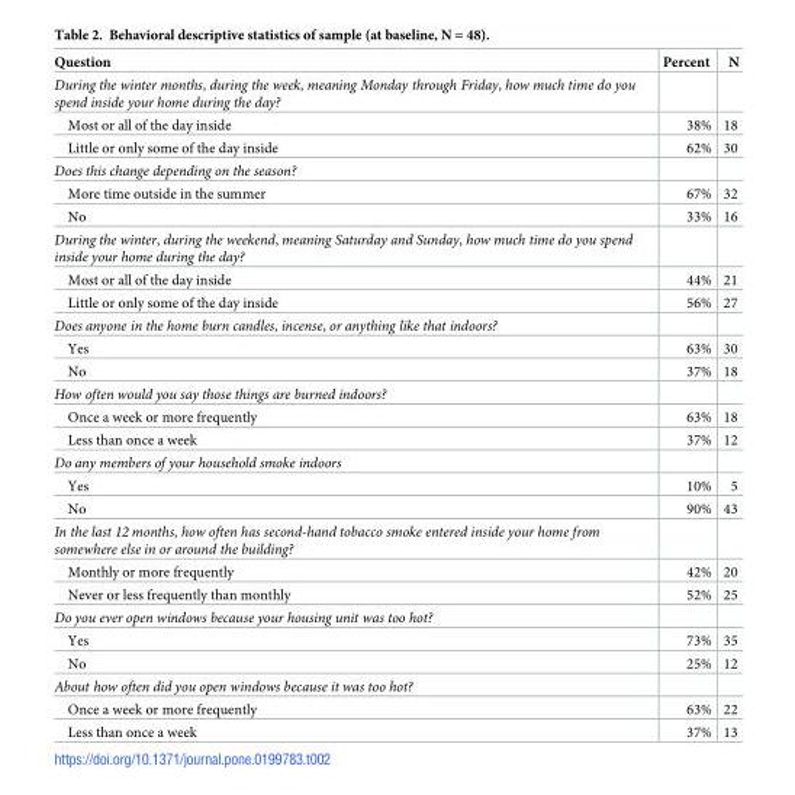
<table><thead><tr><td>Question</td><td>Percent</td><td>N</td></tr></thead><tbody><tr><td colspan="3">During the winter months, during the week, meaning Monday through Friday, how much time do you spend inside your home during the day?</td></tr><tr><td>Most or all of the day inside</td><td>38%</td><td>18</td></tr><tr><td>Little or only some of the day inside</td><td>62%</td><td>30</td></tr><tr><td colspan="3">Does this change depending on the season?</td></tr><tr><td>More time outside in the summer</td><td>67%</td><td>32</td></tr><tr><td>No</td><td>33%</td><td>16</td></tr><tr><td colspan="3">During the winter, during the weekend, meaning Saturday and Sunday, how much time do you spend inside your home during the day?</td></tr><tr><td>Most or all of the day inside</td><td>44%</td><td>21</td></tr><tr><td>Little or only some of the day inside</td><td>56%</td><td>27</td></tr><tr><td colspan="3">Does anyone in the home burn candles, incense, or anything like that indoors?</td></tr><tr><td>Yes</td><td>63%</td><td>30</td></tr><tr><td>No</td><td>37%</td><td>18</td></tr><tr><td colspan="3">How often would you say those things are burned indoors?</td></tr><tr><td>Once a week or more frequently</td><td>63%</td><td>18</td></tr><tr><td>Less than once a week</td><td>37%</td><td>12</td></tr><tr><td colspan="3">Do any members of your household smoke indoors</td></tr><tr><td>Yes</td><td>10%</td><td>5</td></tr><tr><td>No</td><td>90%</td><td>43</td></tr><tr><td colspan="3">In the last 12 months, how often has second-hand tobacco smoke entered inside your home from somewhere else in or around the building?</td></tr><tr><td>Monthly or more frequently</td><td>42%</td><td>20</td></tr><tr><td>Never or less frequently than monthly</td><td>52%</td><td>25</td></tr><tr><td colspan="3">Do you ever open windows because your housing unit was too hot?</td></tr><tr><td>Yes</td><td>73%</td><td>35</td></tr><tr><td>No</td><td>25%</td><td>12</td></tr><tr><td colspan="3">About how often did you open windows because it was too hot?</td></tr><tr><td>Once a week or more frequently</td><td>63%</td><td>22</td></tr><tr><td>Less than once a week</td><td>37%</td><td>13</td></tr></tbody></table>